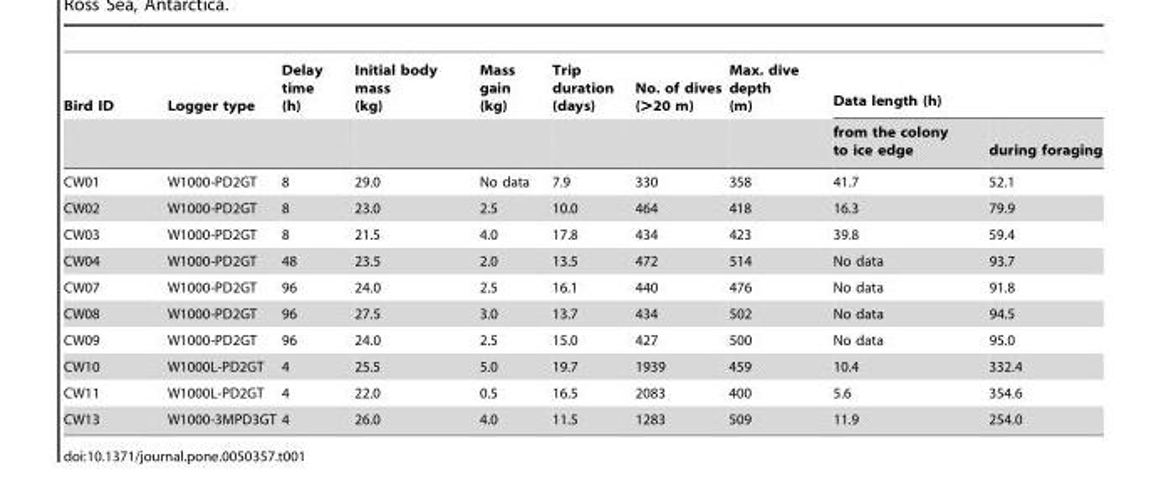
<table><thead><tr><td rowspan="2">Bird ID</td><td rowspan="2">Logger type</td><td rowspan="2">Delay time (h)</td><td rowspan="2">Initial body mass (kg)</td><td rowspan="2">Mass gain (kg)</td><td rowspan="2">Trip duration (days)</td><td rowspan="2">No. of dives (&gt;20 m)</td><td rowspan="2">Max. dive depth (m)</td><td colspan="2">Data length (h)</td></tr><tr><td>from the colony to ice edge</td><td>during foraging</td></tr></thead><tbody><tr><td>CW01</td><td>W1000-PD2GT</td><td>8</td><td>29.0</td><td>No data</td><td>7.9</td><td>330</td><td>358</td><td>41.7</td><td>52.1</td></tr><tr><td>CW02</td><td>W1000-PD2GT</td><td>8</td><td>23.0</td><td>2.5</td><td>10.0</td><td>464</td><td>418</td><td>16.3</td><td>79.9</td></tr><tr><td>CW03</td><td>W1000-PD2GT</td><td>8</td><td>21.5</td><td>4.0</td><td>17.8</td><td>434</td><td>423</td><td>39.8</td><td>59.4</td></tr><tr><td>CW04</td><td>W1000-PD2GT</td><td>48</td><td>23.5</td><td>2.0</td><td>13.5</td><td>472</td><td>514</td><td>No data</td><td>93.7</td></tr><tr><td>CW07</td><td>W1000-PD2GT</td><td>96</td><td>24.0</td><td>2.5</td><td>16.1</td><td>440</td><td>476</td><td>No data</td><td>91.8</td></tr><tr><td>CW08</td><td>W1000-PD2GT</td><td>96</td><td>27.5</td><td>3.0</td><td>13.7</td><td>434</td><td>502</td><td>No data</td><td>94.5</td></tr><tr><td>CW09</td><td>W1000-PD2GT</td><td>96</td><td>24.0</td><td>2.5</td><td>15.0</td><td>427</td><td>500</td><td>No data</td><td>95.0</td></tr><tr><td>CW10</td><td>W1000L-PD2GT</td><td>4</td><td>25.5</td><td>5.0</td><td>19.7</td><td>1939</td><td>459</td><td>10.4</td><td>332.4</td></tr><tr><td>CW11</td><td>W1000L-PD2GT</td><td>4</td><td>22.0</td><td>0.5</td><td>16.5</td><td>2083</td><td>400</td><td>5.6</td><td>354.6</td></tr><tr><td>CW13</td><td>W1000-3MPD3GT</td><td>4</td><td>26.0</td><td>4.0</td><td>11.5</td><td>1283</td><td>509</td><td>11.9</td><td>254.0</td></tr></tbody></table>